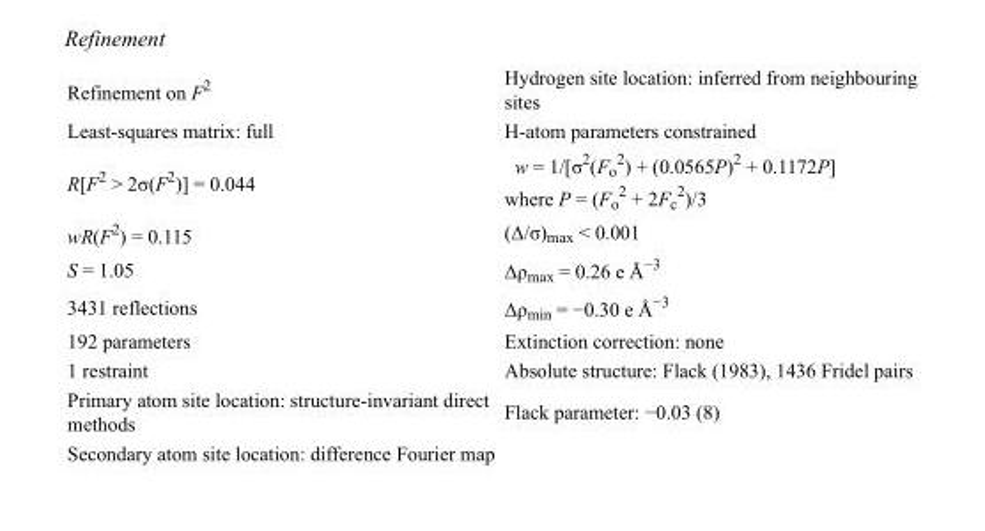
<table><tbody><tr><td>Refinement on F<sup>2</sup></td><td>Hydrogen site location: inferred from neighbouring sites</td></tr><tr><td>Least-squares matrix: full</td><td>H-atom parameters constrained</td></tr><tr><td>R[F<sup>2</sup> &gt; 2σ(F<sup>2</sup>)] = 0.044</td><td>w = 1/[σ<sup>2</sup>(F<sub>o</sub> <sup>2</sup>) + (0.0565P)<sup>2</sup> + 0.1172P] where P = (F<sub>o</sub> <sup>2</sup> + 2F<sub>c</sub> <sup>2</sup>)/3</td></tr><tr><td>wR(F<sup>2</sup>) = 0.115</td><td>(Δ/σ)<sub>max</sub> &lt; 0.001</td></tr><tr><td>S = 1.05</td><td>Δρ<sub>max</sub> = 0.26 e Å<sup>−3</sup></td></tr><tr><td>3431 reflections</td><td>Δρ<sub>min</sub> = −0.30 e Å<sup>−3</sup></td></tr><tr><td>192 parameters</td><td>Extinction correction: none</td></tr><tr><td>1 restraint</td><td>Absolute structure: Flack (1983), 1436 Fridel pairs</td></tr><tr><td>Primary atom site location: structure-invariant direct methods</td><td>Flack parameter: −0.03 (8)</td></tr><tr><td>Secondary atom site location: difference Fourier map</td><td></td></tr></tbody></table>